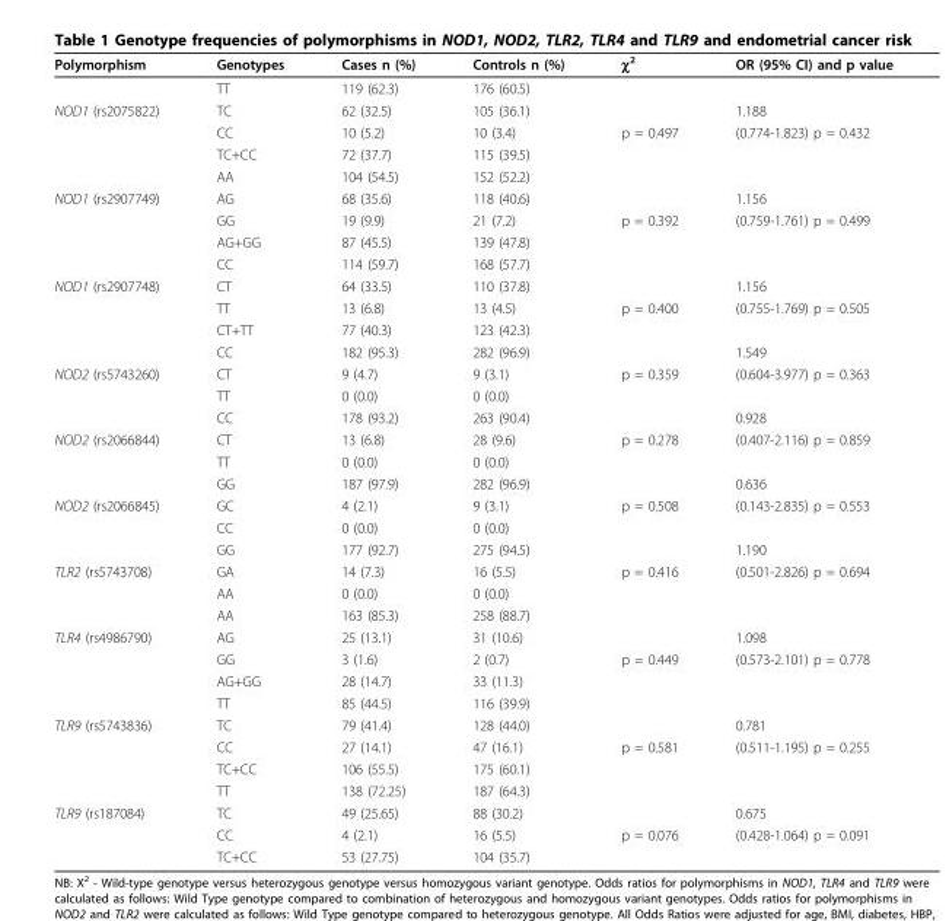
<table><thead><tr><td>Polymorphism</td><td>Genotypes</td><td>Cases n (%)</td><td>Controls n (%)</td><td>χ<sup>2</sup></td><td>OR (95% CI) and p value</td></tr></thead><tbody><tr><td></td><td>TT</td><td>119 (62.3)</td><td>176 (60.5)</td><td></td><td></td></tr><tr><td rowspan="4">NOD1 (rs2075822)</td><td>TC</td><td>62 (32.5)</td><td>105 (36.1)</td><td></td><td>1.188</td></tr><tr><td>CC</td><td>10 (5.2)</td><td>10 (3.4)</td><td>p = 0.497</td><td>(0.774-1.823) p = 0.432</td></tr><tr><td>TC+CC</td><td>72 (37.7)</td><td>115 (39.5)</td><td></td><td></td></tr><tr><td>AA</td><td>104 (54.5)</td><td>152 (52.2)</td><td></td><td></td></tr><tr><td rowspan="4">NOD1 (rs2907749)</td><td>AG</td><td>68 (35.6)</td><td>118 (40.6)</td><td></td><td>1.156</td></tr><tr><td>GG</td><td>19 (9.9)</td><td>21 (7.2)</td><td>p = 0.392</td><td>(0.759-1.761) p = 0.499</td></tr><tr><td>AG+GG</td><td>87 (45.5)</td><td>139 (47.8)</td><td></td><td></td></tr><tr><td>CC</td><td>114 (59.7)</td><td>168 (57.7)</td><td></td><td></td></tr><tr><td rowspan="4">NOD1 (rs2907748)</td><td>CT</td><td>64 (33.5)</td><td>110 (37.8)</td><td></td><td>1.156</td></tr><tr><td>TT</td><td>13 (6.8)</td><td>13 (4.5)</td><td>p = 0.400</td><td>(0.755-1.769) p = 0.505</td></tr><tr><td>CT+TT</td><td>77 (40.3)</td><td>123 (42.3)</td><td></td><td></td></tr><tr><td>CC</td><td>182 (95.3)</td><td>282 (96.9)</td><td></td><td>1.549</td></tr><tr><td rowspan="3">NOD2 (rs5743260)</td><td>CT</td><td>9 (4.7)</td><td>9 (3.1)</td><td>p = 0.359</td><td>(0.604-3.977) p = 0.363</td></tr><tr><td>TT</td><td>0 (0.0)</td><td>0 (0.0)</td><td></td><td></td></tr><tr><td>CC</td><td>178 (93.2)</td><td>263 (90.4)</td><td></td><td>0.928</td></tr><tr><td rowspan="3">NOD2 (rs2066844)</td><td>CT</td><td>13 (6.8)</td><td>28 (9.6)</td><td>p = 0.278</td><td>(0.407-2.116) p = 0.859</td></tr><tr><td>TT</td><td>0 (0.0)</td><td>0 (0.0)</td><td></td><td></td></tr><tr><td>GG</td><td>187 (97.9)</td><td>282 (96.9)</td><td></td><td>0.636</td></tr><tr><td rowspan="3">NOD2 (rs2066845)</td><td>GC</td><td>4 (2.1)</td><td>9 (3.1)</td><td>p = 0.508</td><td>(0.143-2.835) p = 0.553</td></tr><tr><td>CC</td><td>0 (0.0)</td><td>0 (0.0)</td><td></td><td></td></tr><tr><td>GG</td><td>177 (92.7)</td><td>275 (94.5)</td><td></td><td>1.190</td></tr><tr><td rowspan="3">TLR2 (rs5743708)</td><td>GA</td><td>14 (7.3)</td><td>16 (5.5)</td><td>p = 0.416</td><td>(0.501-2.826) p = 0.694</td></tr><tr><td>AA</td><td>0 (0.0)</td><td>0 (0.0)</td><td></td><td></td></tr><tr><td>AA</td><td>163 (85.3)</td><td>258 (88.7)</td><td></td><td></td></tr><tr><td rowspan="4">TLR4 (rs4986790)</td><td>AG</td><td>25 (13.1)</td><td>31 (10.6)</td><td></td><td>1.098</td></tr><tr><td>GG</td><td>3 (1.6)</td><td>2 (0.7)</td><td>p = 0.449</td><td>(0.573-2.101) p = 0.778</td></tr><tr><td>AG+GG</td><td>28 (14.7)</td><td>33 (11.3)</td><td></td><td></td></tr><tr><td>TT</td><td>85 (44.5)</td><td>116 (39.9)</td><td></td><td></td></tr><tr><td rowspan="4">TLR9 (rs5743836)</td><td>TC</td><td>79 (41.4)</td><td>128 (44.0)</td><td></td><td>0.781</td></tr><tr><td>CC</td><td>27 (14.1)</td><td>47 (16.1)</td><td>p = 0.581</td><td>(0.511-1.195) p = 0.255</td></tr><tr><td>TC+CC</td><td>106 (55.5)</td><td>175 (60.1)</td><td></td><td></td></tr><tr><td>TT</td><td>138 (72.25)</td><td>187 (64.3)</td><td></td><td></td></tr><tr><td rowspan="3">TLR9 (rs187084)</td><td>TC</td><td>49 (25.65)</td><td>88 (30.2)</td><td></td><td>0.675</td></tr><tr><td>CC</td><td>4 (2.1)</td><td>16 (5.5)</td><td>p = 0.076</td><td>(0.428-1.064) p = 0.091</td></tr><tr><td>TC+CC</td><td>53 (27.75)</td><td>104 (35.7)</td><td></td><td></td></tr></tbody></table>